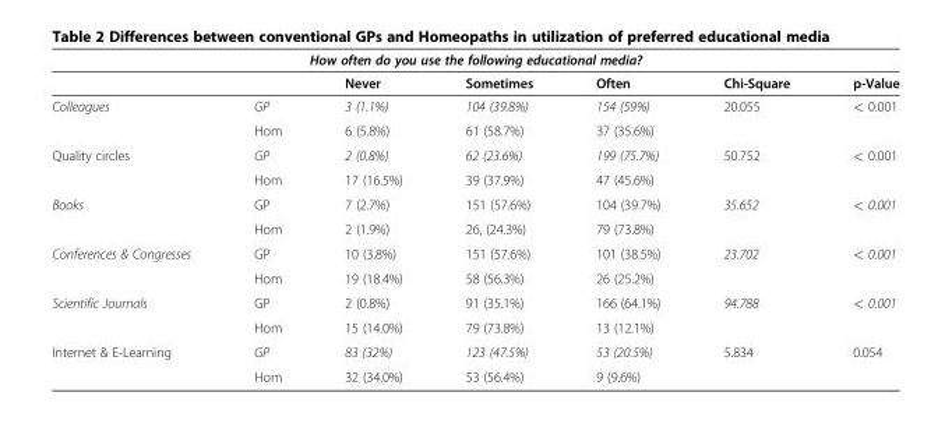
<table><thead><tr><td colspan="7">How often do you use the following educational media?</td></tr><tr><td></td><td></td><td>Never</td><td>Sometimes</td><td>Often</td><td>Chi-Square</td><td>p-Value</td></tr></thead><tbody><tr><td rowspan="2">Colleagues</td><td>GP</td><td>3 (1.1%)</td><td>104 (39.8%)</td><td>154 (59%)</td><td>20.055</td><td>&lt; 0.001</td></tr><tr><td>Hom</td><td>6 (5.8%)</td><td>61 (58.7%)</td><td>37 (35.6%)</td><td></td><td></td></tr><tr><td rowspan="2">Quality circles</td><td>GP</td><td>2 (0.8%)</td><td>62 (23.6%)</td><td>199 (75.7%)</td><td>50.752</td><td>&lt; 0.001</td></tr><tr><td>Hom</td><td>17 (16.5%)</td><td>39 (37.9%)</td><td>47 (45.6%)</td><td></td><td></td></tr><tr><td rowspan="2">Books</td><td>GP</td><td>7 (2.7%)</td><td>151 (57.6%)</td><td>104 (39.7%)</td><td>35.652</td><td>&lt; 0.001</td></tr><tr><td>Hom</td><td>2 (1.9%)</td><td>26, (24.3%)</td><td>79 (73.8%)</td><td></td><td></td></tr><tr><td rowspan="2">Conferences &amp; Congresses</td><td>GP</td><td>10 (3.8%)</td><td>151 (57.6%)</td><td>101 (38.5%)</td><td>23.702</td><td>&lt; 0.001</td></tr><tr><td>Hom</td><td>19 (18.4%)</td><td>58 (56.3%)</td><td>26 (25.2%)</td><td></td><td></td></tr><tr><td rowspan="2">Scientific Journals</td><td>GP</td><td>2 (0.8%)</td><td>91 (35.1%)</td><td>166 (64.1%)</td><td>94.788</td><td>&lt; 0.001</td></tr><tr><td>Hom</td><td>15 (14.0%)</td><td>79 (73.8%)</td><td>13 (12.1%)</td><td></td><td></td></tr><tr><td rowspan="2">Internet &amp; E-Learning</td><td>GP</td><td>83 (32%)</td><td>123 (47.5%)</td><td>53 (20.5%)</td><td>5.834</td><td>0.054</td></tr><tr><td>Hom</td><td>32 (34.0%)</td><td>53 (56.4%)</td><td>9 (9.6%)</td><td></td><td></td></tr></tbody></table>